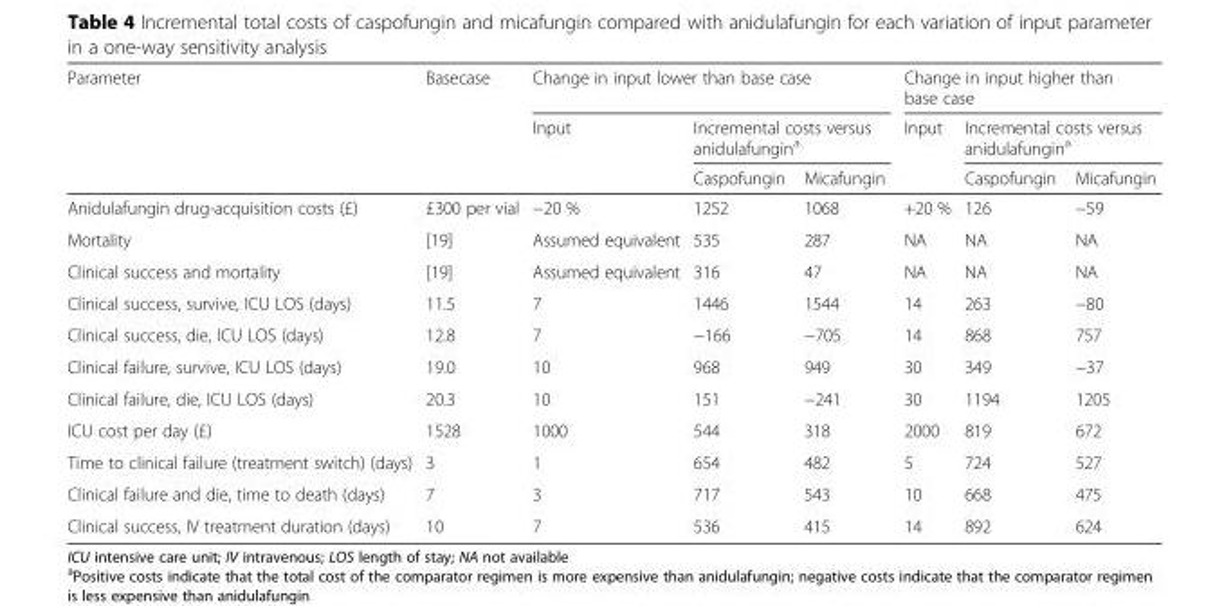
<table><thead><tr><td rowspan="3">Parameter</td><td rowspan="3">Basecase</td><td colspan="3">Change in input lower than base case</td><td colspan="3">Change in input higher than base case</td></tr><tr><td rowspan="2">Input</td><td colspan="2">Incremental costs versus anidulafungin<sup>a</sup></td><td rowspan="2">Input</td><td colspan="2">Incremental costs versus anidulafungin<sup>a</sup></td></tr><tr><td>Caspofungin</td><td>Micafungin</td><td>Caspofungin</td><td>Micafungin</td></tr></thead><tbody><tr><td>Anidulafungin drug-acquisition costs (£)</td><td>£300 per vial</td><td>−20 %</td><td>1252</td><td>1068</td><td>+20 %</td><td>126</td><td>−59</td></tr><tr><td>Mortality</td><td>[19]</td><td>Assumed equivalent</td><td>535</td><td>287</td><td>NA</td><td>NA</td><td>NA</td></tr><tr><td>Clinical success and mortality</td><td>[19]</td><td>Assumed equivalent</td><td>316</td><td>47</td><td>NA</td><td>NA</td><td>NA</td></tr><tr><td>Clinical success, survive, ICU LOS (days)</td><td>11.5</td><td>7</td><td>1446</td><td>1544</td><td>14</td><td>263</td><td>−80</td></tr><tr><td>Clinical success, die, ICU LOS (days)</td><td>12.8</td><td>7</td><td>−166</td><td>−705</td><td>14</td><td>868</td><td>757</td></tr><tr><td>Clinical failure, survive, ICU LOS (days)</td><td>19.0</td><td>10</td><td>968</td><td>949</td><td>30</td><td>349</td><td>−37</td></tr><tr><td>Clinical failure, die, ICU LOS (days)</td><td>20.3</td><td>10</td><td>151</td><td>−241</td><td>30</td><td>1194</td><td>1205</td></tr><tr><td>ICU cost per day (£)</td><td>1528</td><td>1000</td><td>544</td><td>318</td><td>2000</td><td>819</td><td>672</td></tr><tr><td>Time to clinical failure (treatment switch) (days)</td><td>3</td><td>1</td><td>654</td><td>482</td><td>5</td><td>724</td><td>527</td></tr><tr><td>Clinical failure and die, time to death (days)</td><td>7</td><td>3</td><td>717</td><td>543</td><td>10</td><td>668</td><td>475</td></tr><tr><td>Clinical success, IV treatment duration (days)</td><td>10</td><td>7</td><td>536</td><td>415</td><td>14</td><td>892</td><td>624</td></tr></tbody></table>